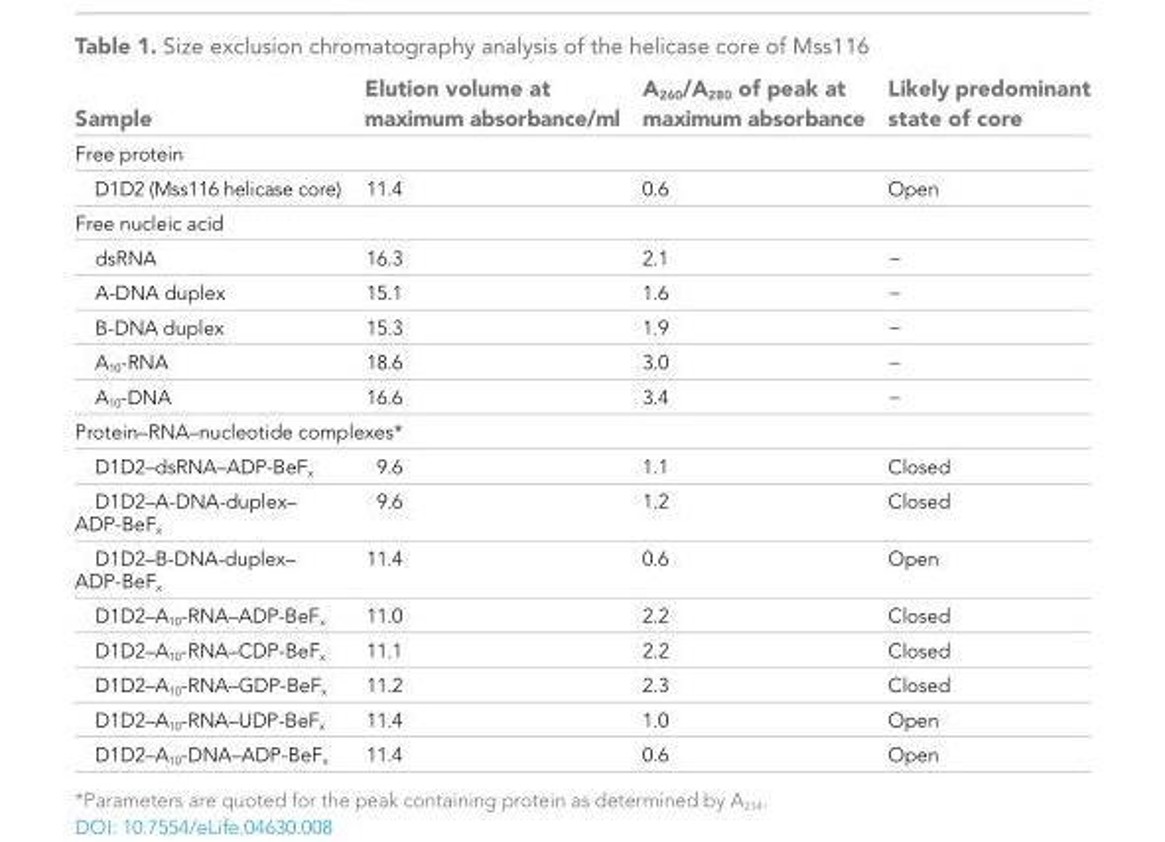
<table><thead><tr><td>Sample</td><td>Elution volume at maximum absorbance/ml</td><td>A<sub>260</sub>/A<sub>280</sub> of peak at maximum absorbance</td><td>Likely predominant state of core</td></tr></thead><tbody><tr><td colspan="4">Free protein</td></tr><tr><td>D1D2 (Mss116 helicase core)</td><td>11.4</td><td>0.6</td><td>Open</td></tr><tr><td colspan="4">Free nucleic acid</td></tr><tr><td>dsRNA</td><td>16.3</td><td>2.1</td><td>−</td></tr><tr><td>A-DNA duplex</td><td>15.1</td><td>1.6</td><td>−</td></tr><tr><td>B-DNA duplex</td><td>15.3</td><td>1.9</td><td>−</td></tr><tr><td>A<sub>10</sub>-RNA</td><td>18.6</td><td>3.0</td><td>−</td></tr><tr><td>A<sub>10</sub>-DNA</td><td>16.6</td><td>3.4</td><td>−</td></tr><tr><td colspan="4">Protein–RNA–nucleotide complexes*</td></tr><tr><td>D1D2–dsRNA–ADP-BeF<sub>x</sub></td><td>9.6</td><td>1.1</td><td>Closed</td></tr><tr><td>D1D2–A-DNA-duplex– ADP-BeF<sub>x</sub></td><td>9.6</td><td>1.2</td><td>Closed</td></tr><tr><td>D1D2–B-DNA-duplex– ADP-BeF<sub>x</sub></td><td>11.4</td><td>0.6</td><td>Open</td></tr><tr><td>D1D2–A<sub>10</sub>-RNA–ADP-BeF<sub>x</sub></td><td>11.0</td><td>2.2</td><td>Closed</td></tr><tr><td>D1D2–A<sub>10</sub>-RNA–CDP-BeF<sub>x</sub></td><td>11.1</td><td>2.2</td><td>Closed</td></tr><tr><td>D1D2–A<sub>10</sub>-RNA–GDP-BeF<sub>x</sub></td><td>11.2</td><td>2.3</td><td>Closed</td></tr><tr><td>D1D2–A<sub>10</sub>-RNA–UDP-BeF<sub>x</sub></td><td>11.4</td><td>1.0</td><td>Open</td></tr><tr><td>D1D2–A<sub>10</sub>-DNA–ADP-BeF<sub>x</sub></td><td>11.4</td><td>0.6</td><td>Open</td></tr></tbody></table>